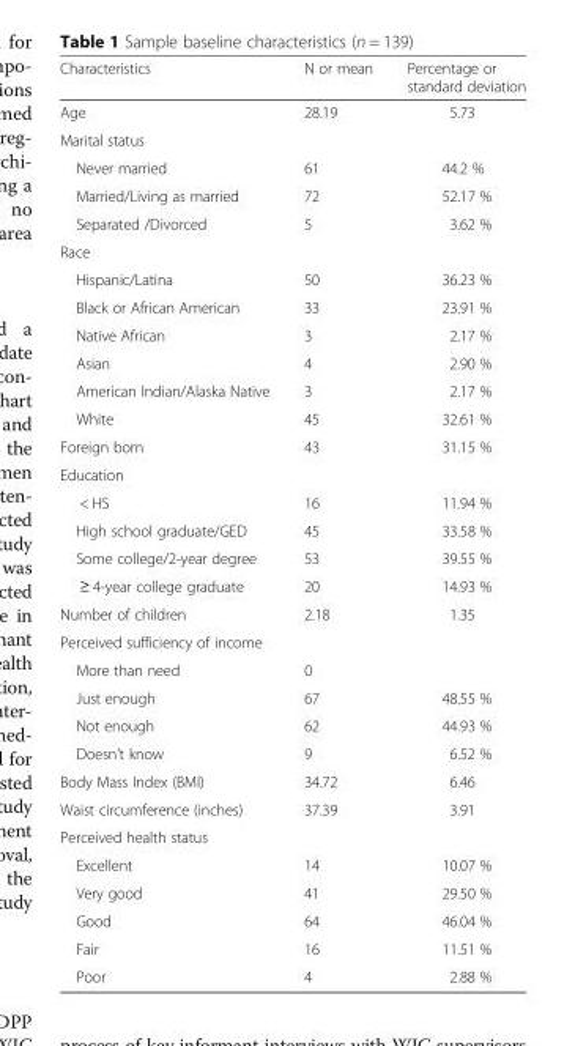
<table><thead><tr><td>Characteristics</td><td>N or mean</td><td>Percentage or standard deviation</td></tr></thead><tbody><tr><td>Age</td><td>28.19</td><td>5.73</td></tr><tr><td colspan="3">Marital status</td></tr><tr><td>Never married</td><td>61</td><td>44.2 %</td></tr><tr><td>Married/Living as married</td><td>72</td><td>52.17 %</td></tr><tr><td>Separated /Divorced</td><td>5</td><td>3.62 %</td></tr><tr><td colspan="3">Race</td></tr><tr><td>Hispanic/Latina</td><td>50</td><td>36.23 %</td></tr><tr><td>Black or African American</td><td>33</td><td>23.91 %</td></tr><tr><td>Native African</td><td>3</td><td>2.17 %</td></tr><tr><td>Asian</td><td>4</td><td>2.90 %</td></tr><tr><td>American Indian/Alaska Native</td><td>3</td><td>2.17 %</td></tr><tr><td>White</td><td>45</td><td>32.61 %</td></tr><tr><td>Foreign born</td><td>43</td><td>31.15 %</td></tr><tr><td colspan="3">Education</td></tr><tr><td>&lt; HS</td><td>16</td><td>11.94 %</td></tr><tr><td>High school graduate/GED</td><td>45</td><td>33.58 %</td></tr><tr><td>Some college/2-year degree</td><td>53</td><td>39.55 %</td></tr><tr><td>≥ 4-year college graduate</td><td>20</td><td>14.93 %</td></tr><tr><td>Number of children</td><td>2.18</td><td>1.35</td></tr><tr><td colspan="3">Perceived sufficiency of income</td></tr><tr><td>More than need</td><td>0</td><td></td></tr><tr><td>Just enough</td><td>67</td><td>48.55 %</td></tr><tr><td>Not enough</td><td>62</td><td>44.93 %</td></tr><tr><td>Doesn’t know</td><td>9</td><td>6.52 %</td></tr><tr><td>Body Mass Index (BMI)</td><td>34.72</td><td>6.46</td></tr><tr><td>Waist circumference (inches)</td><td>37.39</td><td>3.91</td></tr><tr><td colspan="3">Perceived health status</td></tr><tr><td>Excellent</td><td>14</td><td>10.07 %</td></tr><tr><td>Very good</td><td>41</td><td>29.50 %</td></tr><tr><td>Good</td><td>64</td><td>46.04 %</td></tr><tr><td>Fair</td><td>16</td><td>11.51 %</td></tr><tr><td>Poor</td><td>4</td><td>2.88 %</td></tr></tbody></table>